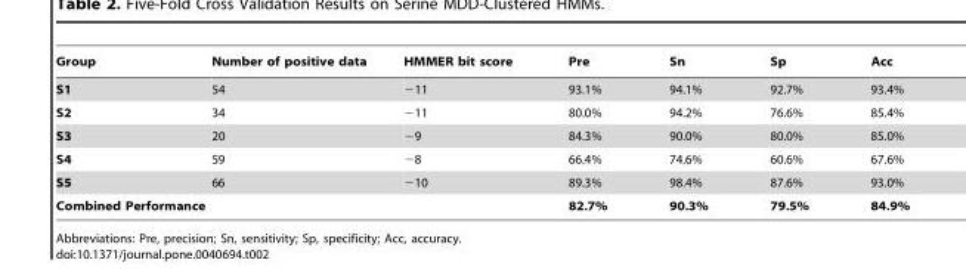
<table><thead><tr><td>Group</td><td>Number of positive data</td><td>HMMER bit score</td><td>Pre</td><td>Sn</td><td>Sp</td><td>Acc</td></tr></thead><tbody><tr><td>S1</td><td>54</td><td>−11</td><td>93.1%</td><td>94.1%</td><td>92.7%</td><td>93.4%</td></tr><tr><td>S2</td><td>34</td><td>−11</td><td>80.0%</td><td>94.2%</td><td>76.6%</td><td>85.4%</td></tr><tr><td>S3</td><td>20</td><td>−9</td><td>84.3%</td><td>90.0%</td><td>80.0%</td><td>85.0%</td></tr><tr><td>S4</td><td>59</td><td>−8</td><td>66.4%</td><td>74.6%</td><td>60.6%</td><td>67.6%</td></tr><tr><td>S5</td><td>66</td><td>−10</td><td>89.3%</td><td>98.4%</td><td>87.6%</td><td>93.0%</td></tr><tr><td>Combined Performance</td><td></td><td></td><td>82.7%</td><td>90.3%</td><td>79.5%</td><td>84.9%</td></tr></tbody></table>